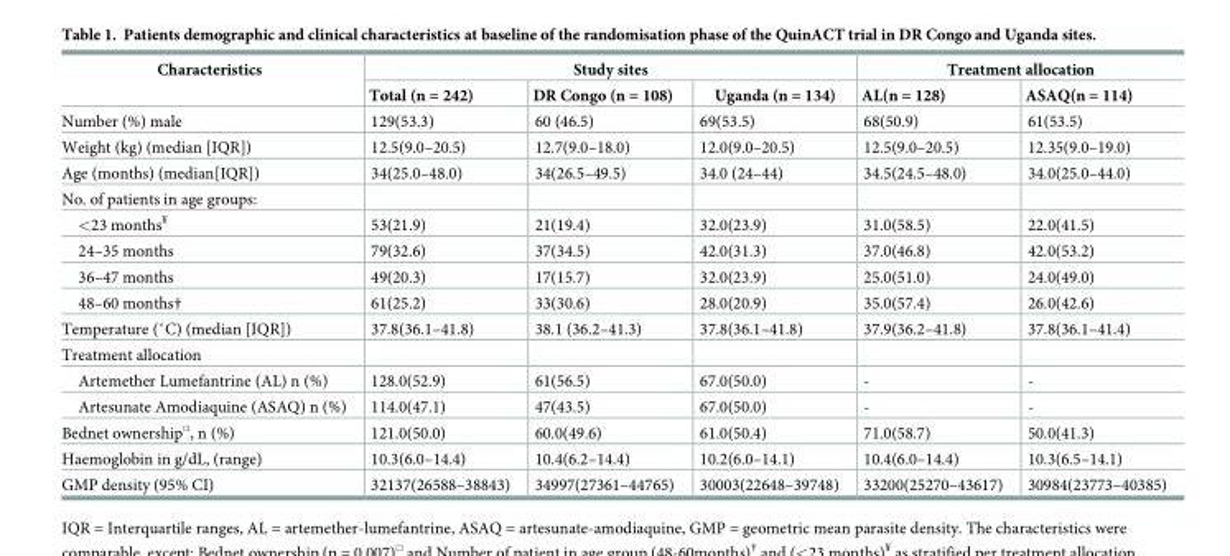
<table><thead><tr><td rowspan="2">Characteristics</td><td colspan="3">Study sites</td><td colspan="2">Treatment allocation</td></tr><tr><td>Total (n = 242)</td><td>DR Congo (n = 108)</td><td>Uganda (n = 134)</td><td>AL(n = 128)</td><td>ASAQ(n = 114)</td></tr></thead><tbody><tr><td>Number (%) male</td><td>129(53.3)</td><td>60 (46.5)</td><td>69(53.5)</td><td>68(50.9)</td><td>61(53.5)</td></tr><tr><td>Weight (kg) (median [IQR])</td><td>12.5(9.0–20.5)</td><td>12.7(9.0–18.0)</td><td>12.0(9.0–20.5)</td><td>12.5(9.0–20.5)</td><td>12.35(9.0–19.0)</td></tr><tr><td>Age (months) (median[IQR])</td><td>34(25.0–48.0)</td><td>34(26.5–49.5)</td><td>34.0 (24–44)</td><td>34.5(24.5–48.0)</td><td>34.0(25.0–44.0)</td></tr><tr><td colspan="6">No. of patients in age groups:</td></tr><tr><td>&lt;23 months<sup>¥</sup></td><td>53(21.9)</td><td>21(19.4)</td><td>32.0(23.9)</td><td>31.0(58.5)</td><td>22.0(41.5)</td></tr><tr><td>24–35 months</td><td>79(32.6)</td><td>37(34.5)</td><td>42.0(31.3)</td><td>37.0(46.8)</td><td>42.0(53.2)</td></tr><tr><td>36–47 months</td><td>49(20.3)</td><td>17(15.7)</td><td>32.0(23.9)</td><td>25.0(51.0)</td><td>24.0(49.0)</td></tr><tr><td>48–60 months†</td><td>61(25.2)</td><td>33(30.6)</td><td>28.0(20.9)</td><td>35.0(57.4)</td><td>26.0(42.6)</td></tr><tr><td>Temperature (˚C) (median [IQR])</td><td>37.8(36.1–41.8)</td><td>38.1 (36.2–41.3)</td><td>37.8(36.1–41.8)</td><td>37.9(36.2–41.8)</td><td>37.8(36.1–41.4)</td></tr><tr><td colspan="6">Treatment allocation</td></tr><tr><td>Artemether Lumefantrine (AL) n (%)</td><td>128.0(52.9)</td><td>61(56.5)</td><td>67.0(50.0)</td><td>-</td><td>-</td></tr><tr><td>Artesunate Amodiaquine (ASAQ) n (%)</td><td>114.0(47.1)</td><td>47(43.5)</td><td>67.0(50.0)</td><td>-</td><td>-</td></tr><tr><td>Bednet ownership<sup>□</sup>, n (%)</td><td>121.0(50.0)</td><td>60.0(49.6)</td><td>61.0(50.4)</td><td>71.0(58.7)</td><td>50.0(41.3)</td></tr><tr><td>Haemoglobin in g/dL, (range)</td><td>10.3(6.0–14.4)</td><td>10.4(6.2–14.4)</td><td>10.2(6.0–14.1)</td><td>10.4(6.0–14.4)</td><td>10.3(6.5–14.1)</td></tr><tr><td>GMP density (95% CI)</td><td>32137(26588–38843)</td><td>34997(27361–44765)</td><td>30003(22648–39748)</td><td>33200(25270–43617)</td><td>30984(23773–40385)</td></tr></tbody></table>